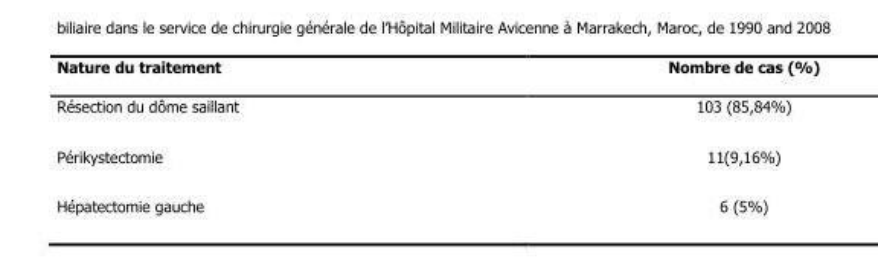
<table><thead><tr><td>Nature du traitement</td><td>Nombre de cas (%)</td></tr></thead><tbody><tr><td>Résection du dôme saillant</td><td>103 (85,84%)</td></tr><tr><td>Périkystectomie</td><td>11(9,16%)</td></tr><tr><td>Hépatectomie gauche</td><td>6 (5%)</td></tr></tbody></table>